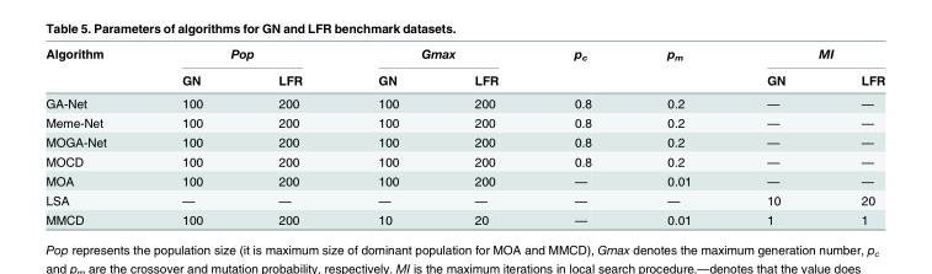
<table><thead><tr><td rowspan="2">Algorithm</td><td colspan="2">Pop</td><td colspan="2">Gmax</td><td rowspan="2">p<sub>c</sub></td><td rowspan="2">p<sub>m</sub></td><td colspan="2">MI</td></tr><tr><td>GN</td><td>LFR</td><td>GN</td><td>LFR</td><td>GN</td><td>LFR</td></tr></thead><tbody><tr><td>GA-Net</td><td>100</td><td>200</td><td>100</td><td>200</td><td>0.8</td><td>0.2</td><td>—</td><td>—</td></tr><tr><td>Meme-Net</td><td>100</td><td>200</td><td>100</td><td>200</td><td>0.8</td><td>0.2</td><td>—</td><td>—</td></tr><tr><td>MOGA-Net</td><td>100</td><td>200</td><td>100</td><td>200</td><td>0.8</td><td>0.2</td><td>—</td><td>—</td></tr><tr><td>MOCD</td><td>100</td><td>200</td><td>100</td><td>200</td><td>0.8</td><td>0.2</td><td>—</td><td>—</td></tr><tr><td>MOA</td><td>100</td><td>200</td><td>100</td><td>200</td><td>—</td><td>0.01</td><td>—</td><td>—</td></tr><tr><td>LSA</td><td>—</td><td>—</td><td>—</td><td>—</td><td>—</td><td>—</td><td>10</td><td>20</td></tr><tr><td>MMCD</td><td>100</td><td>200</td><td>10</td><td>20</td><td>—</td><td>0.01</td><td>1</td><td>1</td></tr></tbody></table>